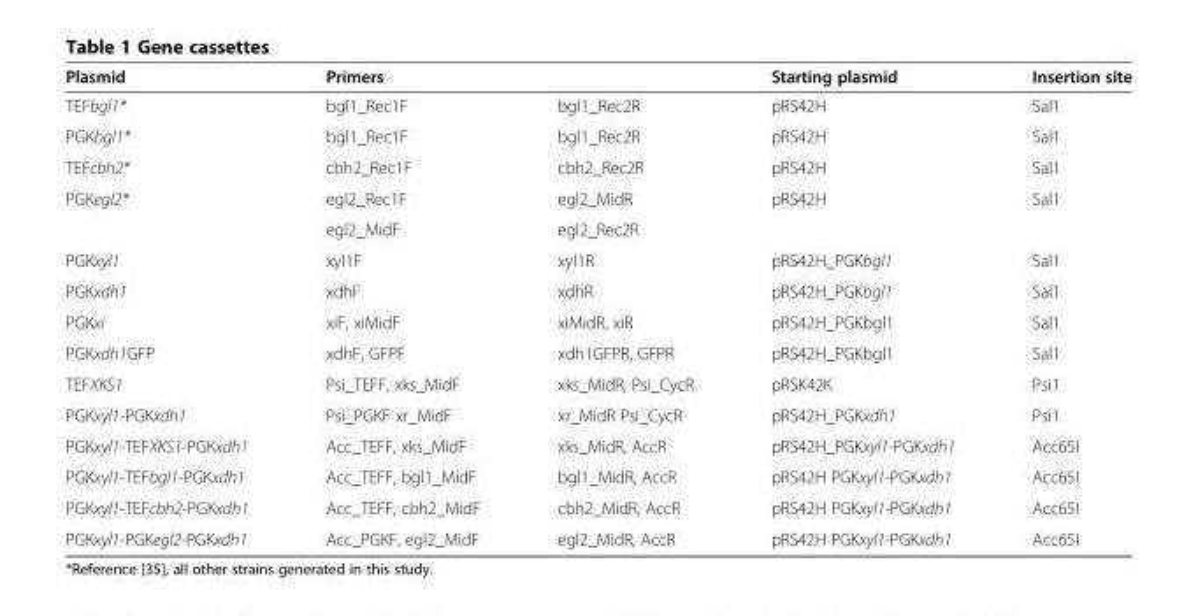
<table><thead><tr><td rowspan="2">Plasmid TEFbgl1*</td><td colspan="2">Primers</td><td rowspan="2">Starting plasmid pRS42H</td><td rowspan="2">Insertion site Sal1</td></tr><tr><td>bgl1_Rec1F</td><td>bgl1_Rec2R</td></tr></thead><tbody><tr><td>PGKbgl1*</td><td>bgl1_Rec1F</td><td>bgl1_Rec2R</td><td>pRS42H</td><td>Sal1</td></tr><tr><td>TEFcbh2*</td><td>cbh2_Rec1F</td><td>cbh2_Rec2R</td><td>pRS42H</td><td>Sal1</td></tr><tr><td rowspan="2">PGKegl2*</td><td>egl2_Rec1F</td><td>egl2_MidR</td><td rowspan="2">pRS42H</td><td rowspan="2">Sal1</td></tr><tr><td>egl2_MidF</td><td>egl2_Rec2R</td></tr><tr><td>PGKxyl1</td><td>xyl1F</td><td>xyl1R</td><td>pRS42H_PGKbgl1</td><td>Sal1</td></tr><tr><td>PGKxdh1</td><td>xdhF</td><td>xdhR</td><td>pRS42H_PGKbgl1</td><td>Sal1</td></tr><tr><td>PGKxi</td><td>xiF, xiMidF</td><td>xiMidR, xiR</td><td>pRS42H_PGKbgl1</td><td>Sal1</td></tr><tr><td>PGKxdh1GFP</td><td>xdhF, GFPF</td><td>xdh1GFPR, GFPR</td><td>pRS42H_PGKbgl1</td><td>Sal1</td></tr><tr><td>TEFXKS1</td><td>Psi_TEFF, xks_MidF</td><td>xks_MidR, Psi_CycR</td><td>pRSK42K</td><td>Psi1</td></tr><tr><td>PGKxyl1-PGKxdh1</td><td>Psi_PGKF xr_MidF</td><td>xr_MidR Psi_CycR</td><td>pRS42H_PGKxdh1</td><td>Psi1</td></tr><tr><td>PGKxyl1-TEFXKS1-PGKxdh1</td><td>Acc_TEFF, xks_MidF</td><td>xks_MidR, AccR</td><td>pRS42H_PGKxyl1-PGKxdh1</td><td>Acc65I</td></tr><tr><td>PGKxyl1-TEFbgl1-PGKxdh1</td><td>Acc_TEFF, bgl1_MidF</td><td>bgl1_MidR, AccR</td><td>pRS42H PGKxyl1-PGKxdh1</td><td>Acc65I</td></tr><tr><td>PGKxyl1-TEFcbh2-PGKxdh1</td><td>Acc_TEFF, cbh2_MidF</td><td>cbh2_MidR, AccR</td><td>pRS42H PGKxyl1-PGKxdh1</td><td>Acc65I</td></tr><tr><td>PGKxyl1-PGKegl2-PGKxdh1</td><td>Acc_PGKF, egl2_MidF</td><td>egl2_MidR, AccR</td><td>pRS42H PGKxyl1-PGKxdh1</td><td>Acc65I</td></tr></tbody></table>